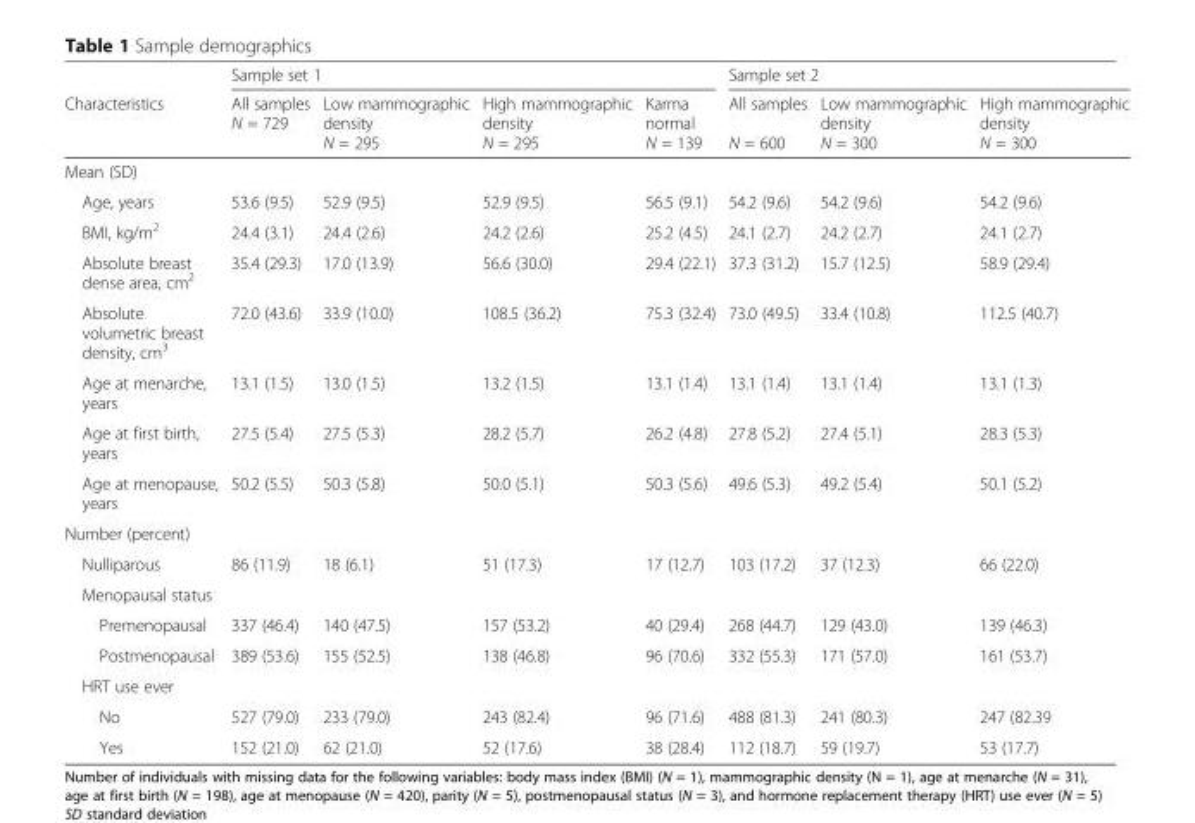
<table><thead><tr><td rowspan="2">Characteristics</td><td colspan="4">Sample set 1</td><td colspan="3">Sample set 2</td></tr><tr><td>All samples N = 729</td><td>Low mammographic density N = 295</td><td>High mammographic density N = 295</td><td>Karma normal N = 139</td><td>All samples N = 600</td><td>Low mammographic density N = 300</td><td>High mammographic density N = 300</td></tr></thead><tbody><tr><td colspan="8">Mean (SD)</td></tr><tr><td>Age, years</td><td>53.6 (9.5)</td><td>52.9 (9.5)</td><td>52.9 (9.5)</td><td>56.5 (9.1)</td><td>54.2 (9.6)</td><td>54.2 (9.6)</td><td>54.2 (9.6)</td></tr><tr><td>BMI, kg/m<sup>2</sup></td><td>24.4 (3.1)</td><td>24.4 (2.6)</td><td>24.2 (2.6)</td><td>25.2 (4.5)</td><td>24.1 (2.7)</td><td>24.2 (2.7)</td><td>24.1 (2.7)</td></tr><tr><td>Absolute breast dense area, cm<sup>2</sup></td><td>35.4 (29.3)</td><td>17.0 (13.9)</td><td>56.6 (30.0)</td><td>29.4 (22.1)</td><td>37.3 (31.2)</td><td>15.7 (12.5)</td><td>58.9 (29.4)</td></tr><tr><td>Absolute volumetric breast density, cm<sup>3</sup></td><td>72.0 (43.6)</td><td>33.9 (10.0)</td><td>108.5 (36.2)</td><td>75.3 (32.4)</td><td>73.0 (49.5)</td><td>33.4 (10.8)</td><td>112.5 (40.7)</td></tr><tr><td>Age at menarche, years</td><td>13.1 (1.5)</td><td>13.0 (1.5)</td><td>13.2 (1.5)</td><td>13.1 (1.4)</td><td>13.1 (1.4)</td><td>13.1 (1.4)</td><td>13.1 (1.3)</td></tr><tr><td>Age at first birth, years</td><td>27.5 (5.4)</td><td>27.5 (5.3)</td><td>28.2 (5.7)</td><td>26.2 (4.8)</td><td>27.8 (5.2)</td><td>27.4 (5.1)</td><td>28.3 (5.3)</td></tr><tr><td>Age at menopause, years</td><td>50.2 (5.5)</td><td>50.3 (5.8)</td><td>50.0 (5.1)</td><td>50.3 (5.6)</td><td>49.6 (5.3)</td><td>49.2 (5.4)</td><td>50.1 (5.2)</td></tr><tr><td colspan="8">Number (percent)</td></tr><tr><td>Nulliparous</td><td>86 (11.9)</td><td>18 (6.1)</td><td>51 (17.3)</td><td>17 (12.7)</td><td>103 (17.2)</td><td>37 (12.3)</td><td>66 (22.0)</td></tr><tr><td colspan="8">Menopausal status</td></tr><tr><td>Premenopausal</td><td>337 (46.4)</td><td>140 (47.5)</td><td>157 (53.2)</td><td>40 (29.4)</td><td>268 (44.7)</td><td>129 (43.0)</td><td>139 (46.3)</td></tr><tr><td>Postmenopausal</td><td>389 (53.6)</td><td>155 (52.5)</td><td>138 (46.8)</td><td>96 (70.6)</td><td>332 (55.3)</td><td>171 (57.0)</td><td>161 (53.7)</td></tr><tr><td colspan="8">HRT use ever</td></tr><tr><td>No</td><td>527 (79.0)</td><td>233 (79.0)</td><td>243 (82.4)</td><td>96 (71.6)</td><td>488 (81.3)</td><td>241 (80.3)</td><td>247 (82.39</td></tr><tr><td>Yes</td><td>152 (21.0)</td><td>62 (21.0)</td><td>52 (17.6)</td><td>38 (28.4)</td><td>112 (18.7)</td><td>59 (19.7)</td><td>53 (17.7)</td></tr></tbody></table>